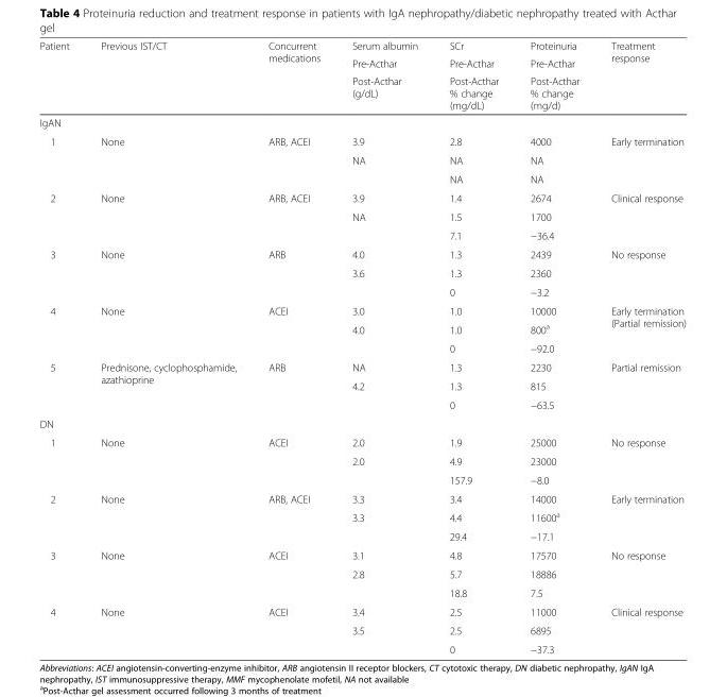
<table><thead><tr><td rowspan="3">Patient</td><td rowspan="3">Previous IST/CT</td><td rowspan="3">Concurrent medications</td><td rowspan="3">Serum albumin Pre-Acthar Post-Acthar (g/dL)</td><td rowspan="3">SCr Pre-Acthar Post-Acthar % change (mg/dL)</td><td rowspan="3">Proteinuria Pre-Acthar Post-Acthar % change (mg/d)</td><td rowspan="3">Treatment response</td></tr><tr></tr><tr></tr></thead><tbody><tr><td colspan="7">IgAN</td></tr><tr><td rowspan="3">1</td><td rowspan="3">None</td><td rowspan="3">ARB, ACEI</td><td>3.9</td><td>2.8</td><td>4000</td><td rowspan="3">Early termination</td></tr><tr><td rowspan="2">NA</td><td>NA</td><td>NA</td></tr><tr><td>NA</td><td>NA</td></tr><tr><td rowspan="3">2</td><td rowspan="3">None</td><td rowspan="3">ARB, ACEI</td><td>3.9</td><td>1.4</td><td>2674</td><td rowspan="3">Clinical response</td></tr><tr><td rowspan="2">NA</td><td>1.5</td><td>1700</td></tr><tr><td>7.1</td><td>−36.4</td></tr><tr><td rowspan="3">3</td><td rowspan="3">None</td><td rowspan="3">ARB</td><td>4.0</td><td>1.3</td><td>2439</td><td rowspan="3">No response</td></tr><tr><td rowspan="2">3.6</td><td>1.3</td><td>2360</td></tr><tr><td>0</td><td>−3.2</td></tr><tr><td rowspan="3">4</td><td rowspan="3">None</td><td rowspan="3">ACEI</td><td>3.0</td><td>1.0</td><td>10000</td><td rowspan="3">Early termination (Partial remission)</td></tr><tr><td rowspan="2">4.0</td><td>1.0</td><td>800<sup>a</sup></td></tr><tr><td>0</td><td>−92.0</td></tr><tr><td rowspan="3">5</td><td rowspan="3">Prednisone, cyclophosphamide, azathioprine</td><td rowspan="3">ARB</td><td>NA</td><td>1.3</td><td>2230</td><td rowspan="3">Partial remission</td></tr><tr><td rowspan="2">4.2</td><td>1.3</td><td>815</td></tr><tr><td>0</td><td>−63.5</td></tr><tr><td colspan="7">DN</td></tr><tr><td rowspan="3">1</td><td rowspan="3">None</td><td rowspan="3">ACEI</td><td>2.0</td><td>1.9</td><td>25000</td><td rowspan="3">No response</td></tr><tr><td rowspan="2">2.0</td><td>4.9</td><td>23000</td></tr><tr><td>157.9</td><td>−8.0</td></tr><tr><td rowspan="3">2</td><td rowspan="3">None</td><td rowspan="3">ARB, ACEI</td><td>3.3</td><td>3.4</td><td>14000</td><td rowspan="3">Early termination</td></tr><tr><td rowspan="2">3.3</td><td>4.4</td><td>11600<sup>a</sup></td></tr><tr><td>29.4</td><td>−17.1</td></tr><tr><td rowspan="3">3</td><td rowspan="3">None</td><td rowspan="3">ACEI</td><td>3.1</td><td>4.8</td><td>17570</td><td rowspan="3">No response</td></tr><tr><td rowspan="2">2.8</td><td>5.7</td><td>18886</td></tr><tr><td>18.8</td><td>7.5</td></tr><tr><td rowspan="3">4</td><td rowspan="3">None</td><td rowspan="3">ACEI</td><td>3.4</td><td>2.5</td><td>11000</td><td rowspan="3">Clinical response</td></tr><tr><td rowspan="2">3.5</td><td>2.5</td><td>6895</td></tr><tr><td>0</td><td>−37.3</td></tr></tbody></table>